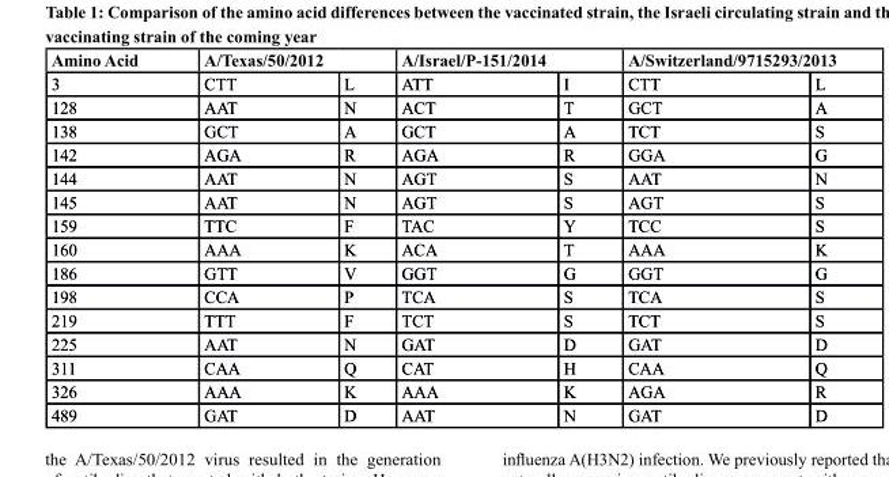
<table><thead><tr><td rowspan="2">Amino Acid 3</td><td colspan="2">A/texas/50/2012</td><td colspan="2">A/Israel/P-151/2014</td><td colspan="2">A/Switzerland/9715293/2013</td></tr><tr><td>CTT</td><td>L</td><td>ATT</td><td>I</td><td>CTT</td><td>L</td></tr></thead><tbody><tr><td>128</td><td>AAT</td><td>N</td><td>ACT</td><td>T</td><td>GCT</td><td>A</td></tr><tr><td>138</td><td>GCT</td><td>A</td><td>GCT</td><td>A</td><td>TCT</td><td>S</td></tr><tr><td>142</td><td>AGA</td><td>R</td><td>AGA</td><td>R</td><td>GGA</td><td>G</td></tr><tr><td>144</td><td>AAT</td><td>N</td><td>AGT</td><td>S</td><td>AAT</td><td>N</td></tr><tr><td>145</td><td>AAT</td><td>N</td><td>AGT</td><td>S</td><td>AGT</td><td>S</td></tr><tr><td>159</td><td>TTC</td><td>F</td><td>TAC</td><td>Y</td><td>TCC</td><td>S</td></tr><tr><td>160</td><td>AAA</td><td>K</td><td>ACA</td><td>T</td><td>AAA</td><td>K</td></tr><tr><td>186</td><td>GTT</td><td>V</td><td>GGT</td><td>G</td><td>GGT</td><td>G</td></tr><tr><td>198</td><td>CCA</td><td>P</td><td>TCA</td><td>S</td><td>TCA</td><td>S</td></tr><tr><td>219</td><td>TTT</td><td>F</td><td>TCT</td><td>S</td><td>TCT</td><td>S</td></tr><tr><td>225</td><td>AAT</td><td>N</td><td>GAT</td><td>D</td><td>GAT</td><td>D</td></tr><tr><td>311</td><td>CAA</td><td>Q</td><td>CAT</td><td>H</td><td>CAA</td><td>Q</td></tr><tr><td>326</td><td>AAA</td><td>K</td><td>AAA</td><td>K</td><td>AGA</td><td>R</td></tr><tr><td>489</td><td>GAT</td><td>D</td><td>AAT</td><td>N</td><td>GAT</td><td>D</td></tr></tbody></table>